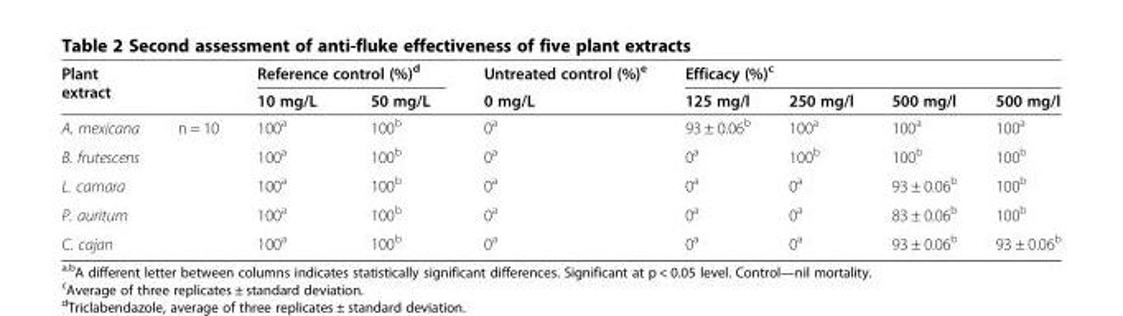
<table><thead><tr><td rowspan="2">Plant extract</td><td rowspan="2"></td><td colspan="2">Reference control (%)<sup>d</sup></td><td rowspan="2">Untreated control (%)<sup>e</sup> 0 mg/L</td><td colspan="4">Efficacy (%)<sup>c</sup></td></tr><tr><td>10 mg/L</td><td>50 mg/L</td><td>125 mg/l</td><td>250 mg/l</td><td>500 mg/l</td><td>500 mg/l</td></tr></thead><tbody><tr><td>A. mexicana</td><td>n = 10</td><td>100<sup>a</sup></td><td>100<sup>b</sup></td><td>0<sup>a</sup></td><td>93 ± 0.06<sup>b</sup></td><td>100<sup>a</sup></td><td>100<sup>a</sup></td><td>100<sup>a</sup></td></tr><tr><td>B. frutescens</td><td></td><td>100<sup>a</sup></td><td>100<sup>b</sup></td><td>0<sup>a</sup></td><td>0<sup>a</sup></td><td>100<sup>b</sup></td><td>100<sup>b</sup></td><td>100<sup>b</sup></td></tr><tr><td>L. camara</td><td></td><td>100<sup>a</sup></td><td>100<sup>b</sup></td><td>0<sup>a</sup></td><td>0<sup>a</sup></td><td>0<sup>a</sup></td><td>93 ± 0.06<sup>b</sup></td><td>100<sup>b</sup></td></tr><tr><td>P. auritum</td><td></td><td>100<sup>a</sup></td><td>100<sup>b</sup></td><td>0<sup>a</sup></td><td>0<sup>a</sup></td><td>0<sup>a</sup></td><td>83 ± 0.06<sup>b</sup></td><td>100<sup>b</sup></td></tr><tr><td>C. cajan</td><td></td><td>100<sup>a</sup></td><td>100<sup>b</sup></td><td>0<sup>a</sup></td><td>0<sup>a</sup></td><td>0<sup>a</sup></td><td>93 ± 0.06<sup>b</sup></td><td>93 ± 0.06<sup>b</sup></td></tr></tbody></table>